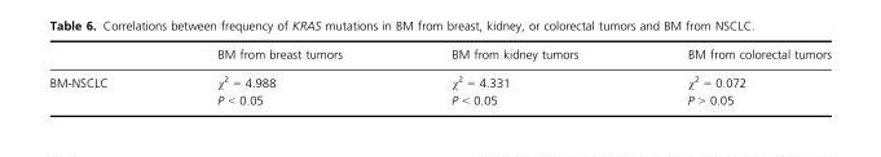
<table><thead><tr><td></td><td>BM from breast tumors</td><td>BM from kidney tumors</td><td>BM from colorectal tumors</td></tr></thead><tbody><tr><td>BM-NSCLC</td><td>χ<sup>2</sup> = 4.988 P &lt; 0.05</td><td>χ<sup>2</sup> = 4.331 P &lt; 0.05</td><td>χ<sup>2</sup> = 0.072 P &gt; 0.05</td></tr></tbody></table>